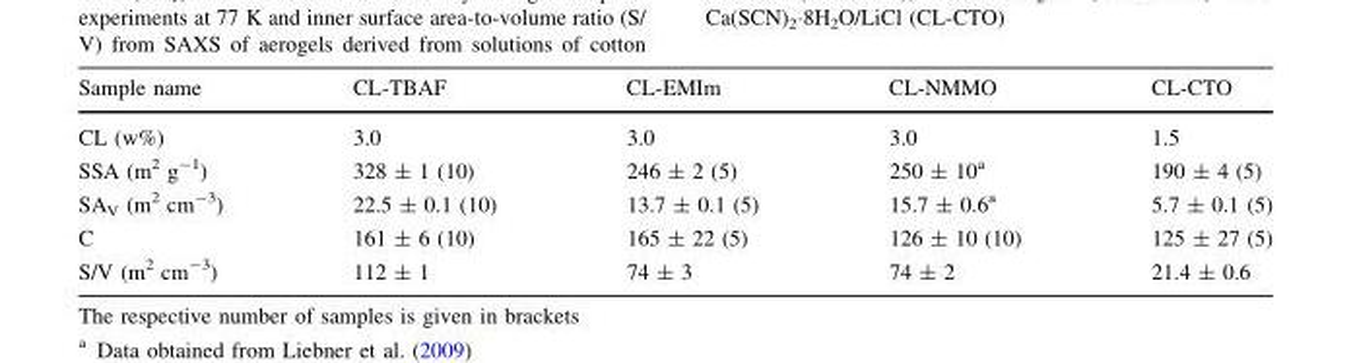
<table><thead><tr><td>Sample name</td><td>CL-TBAF</td><td>CL-EMIm</td><td>CL-NMMO</td><td>CL-CTO</td></tr></thead><tbody><tr><td>CL (w%)</td><td>3.0</td><td>3.0</td><td>3.0</td><td>1.5</td></tr><tr><td>SSA (m<sup>2</sup> g<sup>-1</sup>)</td><td>328 ± 1 (10)</td><td>246 ± 2 (5)</td><td>250 ± 10<sup>a</sup></td><td>190 ± 4 (5)</td></tr><tr><td>SA<sub>V</sub> (m<sup>2</sup> cm<sup>-3</sup>)</td><td>22.5 ± 0.1 (10)</td><td>13.7 ± 0.1 (5)</td><td>15.7 ± 0.6<sup>a</sup></td><td>5.7 ± 0.1 (5)</td></tr><tr><td>C</td><td>161 ± 6 (10)</td><td>165 ± 22 (5)</td><td>126 ± 10 (10)</td><td>125 ± 27 (5)</td></tr><tr><td>S/V (m<sup>2</sup> cm<sup>-3</sup>)</td><td>112 ± 1</td><td>74 ± 3</td><td>74 ± 2</td><td>21.4 ± 0.6</td></tr></tbody></table>